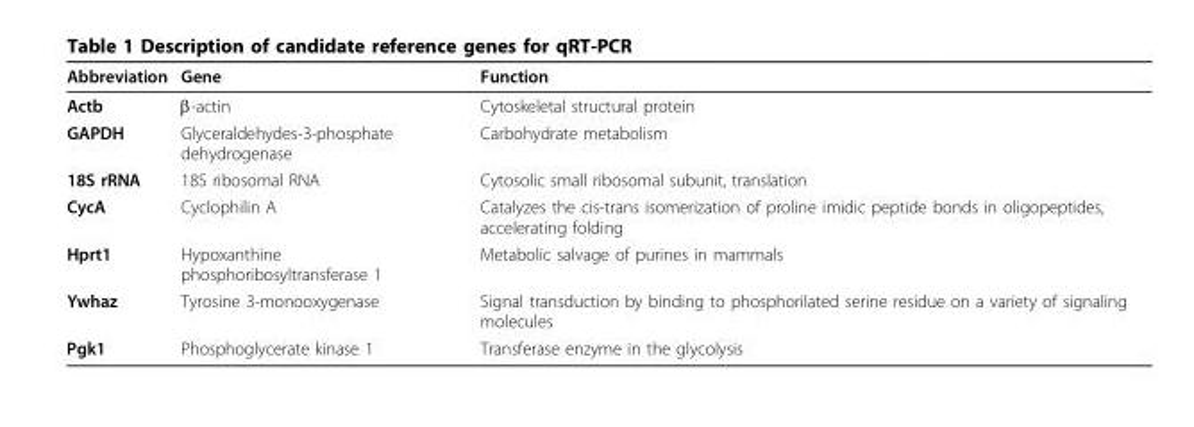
<table><thead><tr><td>Abbreviation</td><td>Gene</td><td>Function</td></tr></thead><tbody><tr><td>Actb</td><td>β-actin</td><td>Cytoskeletal structural protein</td></tr><tr><td>GAPDH</td><td>Glyceraldehydes-3-phosphate dehydrogenase</td><td>Carbohydrate metabolism</td></tr><tr><td>18S rRNA</td><td>18S ribosomal RNA</td><td>Cytosolic small ribosomal subunit, translation</td></tr><tr><td>CycA</td><td>Cyclophilin A</td><td>Catalyzes the cis-trans isomerization of proline imidic peptide bonds in oligopeptides, accelerating folding</td></tr><tr><td>Hprt1</td><td>Hypoxanthine phosphoribosyltransferase 1</td><td>Metabolic salvage of purines in mammals</td></tr><tr><td>Ywhaz</td><td>Tyrosine 3-monooxygenase</td><td>Signal transduction by binding to phosphorilated serine residue on a variety of signaling molecules</td></tr><tr><td>Pgk1</td><td>Phosphoglycerate kinase 1</td><td>Transferase enzyme in the glycolysis</td></tr></tbody></table>